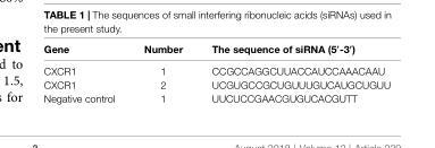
<table><thead><tr><td>Gene</td><td>Number</td><td>The sequence of siRNA (5′-3′)</td></tr></thead><tbody><tr><td>CXCR1</td><td>1</td><td>CCGCCAGGCUUACCAUCCAAACAAU</td></tr><tr><td>CXCR1</td><td>2</td><td>UCGUGCCGCUGUUUGUCAUGCUGUU</td></tr><tr><td>Negative control</td><td>1</td><td>UUCUCCGAACGUGUCACGUTT</td></tr></tbody></table>